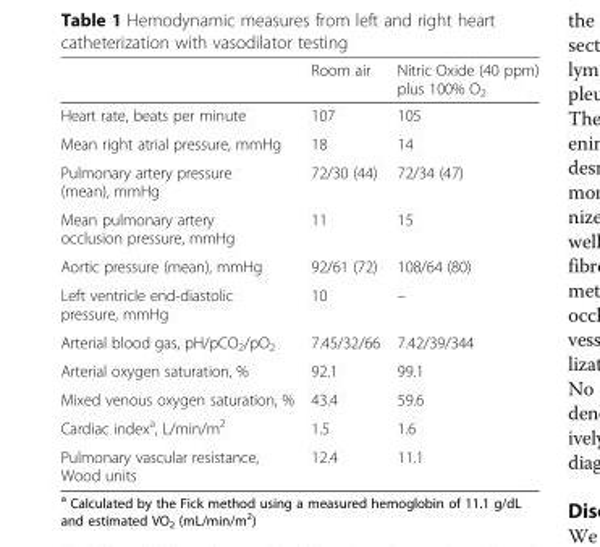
<table><thead><tr><td></td><td>Room air</td><td>Nitric Oxide (40 ppm) plus 100% O<sub>2</sub></td></tr></thead><tbody><tr><td>Heart rate, beats per minute</td><td>107</td><td>105</td></tr><tr><td>Mean right atrial pressure, mmHg</td><td>18</td><td>14</td></tr><tr><td>Pulmonary artery pressure (mean), mmHg</td><td>72/30 (44)</td><td>72/34 (47)</td></tr><tr><td>Mean pulmonary artery occlusion pressure, mmHg</td><td>11</td><td>15</td></tr><tr><td>Aortic pressure (mean), mmHg</td><td>92/61 (72)</td><td>108/64 (80)</td></tr><tr><td>Left ventricle end-diastolic pressure, mmHg</td><td>10</td><td>–</td></tr><tr><td>Arterial blood gas, pH/pCO<sub>2</sub>/pO<sub>2</sub></td><td>7.45/32/66</td><td>7.42/39/344</td></tr><tr><td>Arterial oxygen saturation, %</td><td>92.1</td><td>99.1</td></tr><tr><td>Mixed venous oxygen saturation, %</td><td>43.4</td><td>59.6</td></tr><tr><td>Cardiac index<sup>a</sup>, L/min/m<sup>2</sup></td><td>1.5</td><td>1.6</td></tr><tr><td>Pulmonary vascular resistance, Wood units</td><td>12.4</td><td>11.1</td></tr></tbody></table>